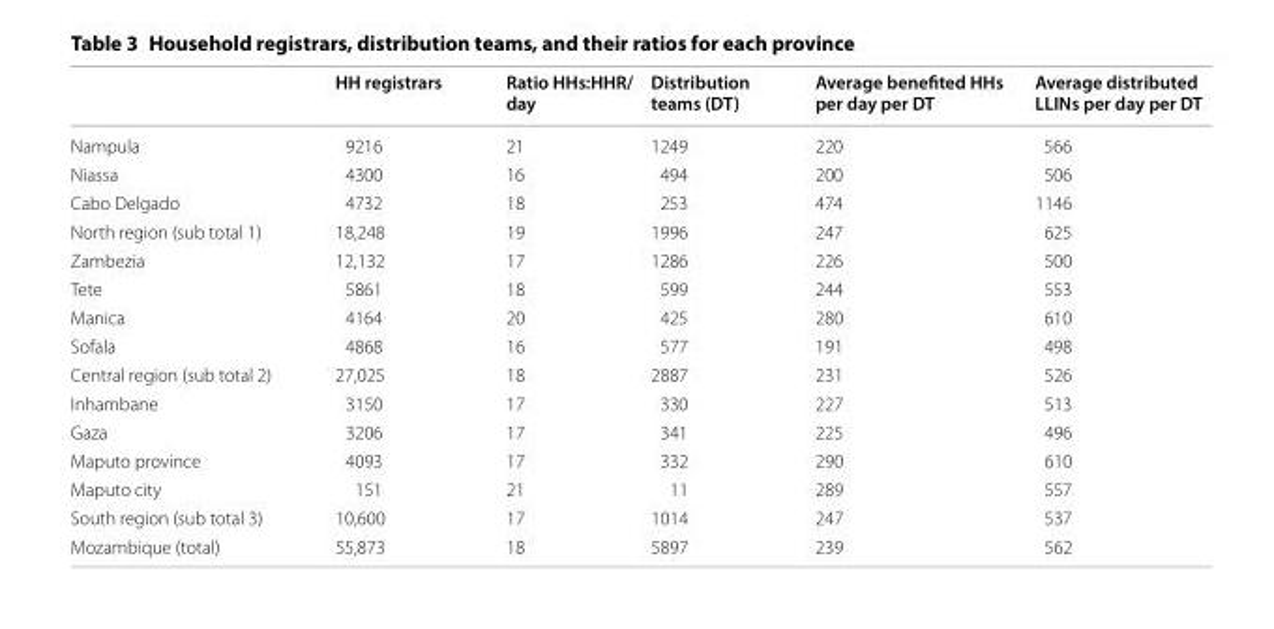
<table><thead><tr><td></td><td>HH registrars</td><td>Ratio HHs:HHR/ day</td><td>Distribution teams (DT)</td><td>Average benefited HHs per day per DT</td><td>Average distributed LLINs per day per DT</td></tr></thead><tbody><tr><td>Nampula</td><td>9216</td><td>21</td><td>1249</td><td>220</td><td>566</td></tr><tr><td>Niassa</td><td>4300</td><td>16</td><td>494</td><td>200</td><td>506</td></tr><tr><td>Cabo Delgado</td><td>4732</td><td>18</td><td>253</td><td>474</td><td>1146</td></tr><tr><td>North region (sub total 1)</td><td>18,248</td><td>19</td><td>1996</td><td>247</td><td>625</td></tr><tr><td>Zambezia</td><td>12,132</td><td>17</td><td>1286</td><td>226</td><td>500</td></tr><tr><td>Tete</td><td>5861</td><td>18</td><td>599</td><td>244</td><td>553</td></tr><tr><td>Manica</td><td>4164</td><td>20</td><td>425</td><td>280</td><td>610</td></tr><tr><td>Sofala</td><td>4868</td><td>16</td><td>577</td><td>191</td><td>498</td></tr><tr><td>Central region (sub total 2)</td><td>27,025</td><td>18</td><td>2887</td><td>231</td><td>526</td></tr><tr><td>Inhambane</td><td>3150</td><td>17</td><td>330</td><td>227</td><td>513</td></tr><tr><td>Gaza</td><td>3206</td><td>17</td><td>341</td><td>225</td><td>496</td></tr><tr><td>Maputo province</td><td>4093</td><td>17</td><td>332</td><td>290</td><td>610</td></tr><tr><td>Maputo city</td><td>151</td><td>21</td><td>11</td><td>289</td><td>557</td></tr><tr><td>South region (sub total 3)</td><td>10,600</td><td>17</td><td>1014</td><td>247</td><td>537</td></tr><tr><td>Mozambique (total)</td><td>55,873</td><td>18</td><td>5897</td><td>239</td><td>562</td></tr></tbody></table>